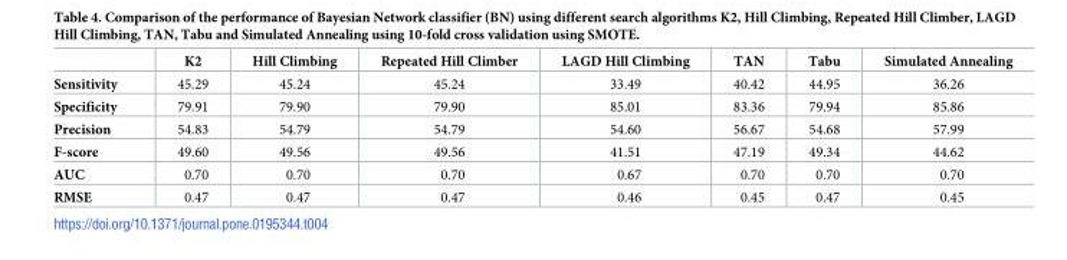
<table><thead><tr><td></td><td>K2</td><td>Hill Climbing</td><td>Repeated Hill Climber</td><td>LAGD Hill Climbing</td><td>TAN</td><td>Tabu</td><td>Simulated Annealing</td></tr></thead><tbody><tr><td>Sensitivity</td><td>45.29</td><td>45.24</td><td>45.24</td><td>33.49</td><td>40.42</td><td>44.95</td><td>36.26</td></tr><tr><td>Specificity</td><td>79.91</td><td>79.90</td><td>79.90</td><td>85.01</td><td>83.36</td><td>79.94</td><td>85.86</td></tr><tr><td>Precision</td><td>54.83</td><td>54.79</td><td>54.79</td><td>54.60</td><td>56.67</td><td>54.68</td><td>57.99</td></tr><tr><td>F-score</td><td>49.60</td><td>49.56</td><td>49.56</td><td>41.51</td><td>47.19</td><td>49.34</td><td>44.62</td></tr><tr><td>AUC</td><td>0.70</td><td>0.70</td><td>0.70</td><td>0.67</td><td>0.70</td><td>0.70</td><td>0.70</td></tr><tr><td>RMSE</td><td>0.47</td><td>0.47</td><td>0.47</td><td>0.46</td><td>0.45</td><td>0.47</td><td>0.45</td></tr></tbody></table>